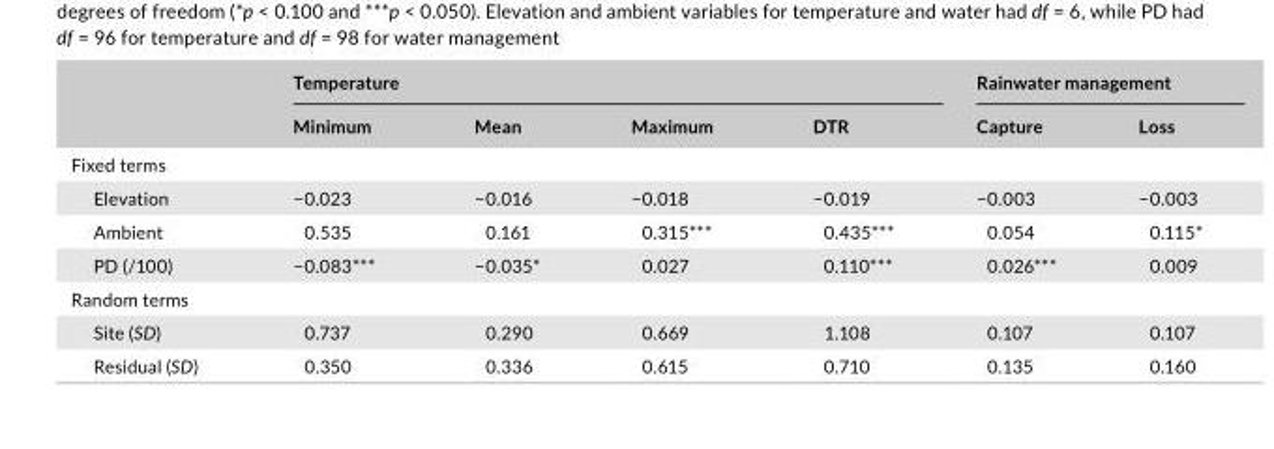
<table><thead><tr><td rowspan="2"></td><td colspan="4">Temperature</td><td colspan="2">Rainwater management</td></tr><tr><td>Minimum</td><td>Mean</td><td>Maximum</td><td>DTR</td><td>Capture</td><td>Loss</td></tr></thead><tbody><tr><td colspan="7">Fixed terms</td></tr><tr><td>Elevation</td><td>−0.023</td><td>−0.016</td><td>−0.018</td><td>−0.019</td><td>−0.003</td><td>−0.003</td></tr><tr><td>Ambient</td><td>0.535</td><td>0.161</td><td>0.315***</td><td>0.435***</td><td>0.054</td><td>0.115*</td></tr><tr><td>PD (/100)</td><td>−0.083***</td><td>−0.035*</td><td>0.027</td><td>0.110***</td><td>0.026***</td><td>0.009</td></tr><tr><td colspan="7">Random terms</td></tr><tr><td>Site (SD)</td><td>0.737</td><td>0.290</td><td>0.669</td><td>1.108</td><td>0.107</td><td>0.107</td></tr><tr><td>Residual (SD)</td><td>0.350</td><td>0.336</td><td>0.615</td><td>0.710</td><td>0.135</td><td>0.160</td></tr></tbody></table>